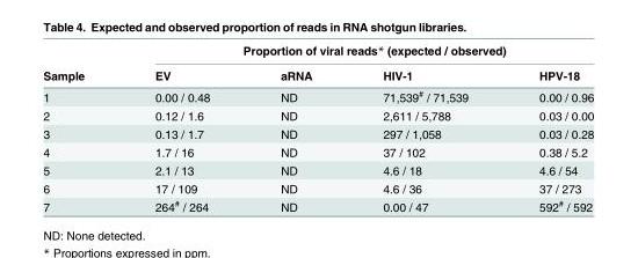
<table><thead><tr><td rowspan="2">Sample</td><td colspan="4">Proportion of viral reads* (expected / observed)</td></tr><tr><td>EV</td><td>aRNA</td><td>HIV-1</td><td>HPV-18</td></tr></thead><tbody><tr><td>1</td><td>0.00 / 0.48</td><td>ND</td><td>71,539<sup>#</sup> / 71,539</td><td>0.00 / 0.96</td></tr><tr><td>2</td><td>0.12 / 1.6</td><td>ND</td><td>2,611 / 5,788</td><td>0.03 / 0.00</td></tr><tr><td>3</td><td>0.13 / 1.7</td><td>ND</td><td>297 / 1,058</td><td>0.03 / 0.28</td></tr><tr><td>4</td><td>1.7 / 16</td><td>ND</td><td>37 / 102</td><td>0.38 / 5.2</td></tr><tr><td>5</td><td>2.1 / 13</td><td>ND</td><td>4.6 / 18</td><td>4.6 / 54</td></tr><tr><td>6</td><td>17 / 109</td><td>ND</td><td>4.6 / 36</td><td>37 / 273</td></tr><tr><td>7</td><td>264<sup>#</sup> / 264</td><td>ND</td><td>0.00 / 47</td><td>592<sup>#</sup> / 592</td></tr></tbody></table>